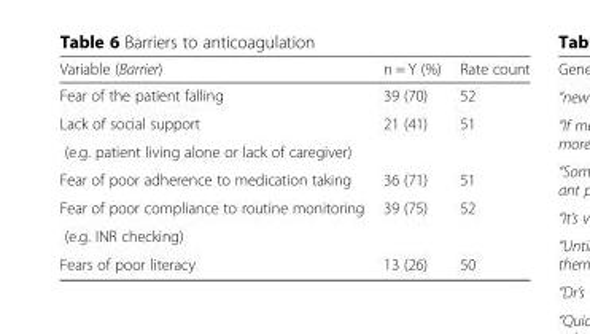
<table><thead><tr><td>Variable (Barrier)</td><td>n = Y (%)</td><td>Rate count</td></tr></thead><tbody><tr><td>Fear of the patient falling</td><td>39 (70)</td><td>52</td></tr><tr><td>Lack of social support</td><td rowspan="2">21 (41)</td><td rowspan="2">51</td></tr><tr><td>(e.g. patient living alone or lack of caregiver)</td></tr><tr><td>Fear of poor adherence to medication taking</td><td>36 (71)</td><td>51</td></tr><tr><td>Fear of poor compliance to routine monitoring</td><td rowspan="2">39 (75)</td><td rowspan="2">52</td></tr><tr><td>(e.g. INR checking)</td></tr><tr><td>Fears of poor literacy</td><td>13 (26)</td><td>50</td></tr></tbody></table>